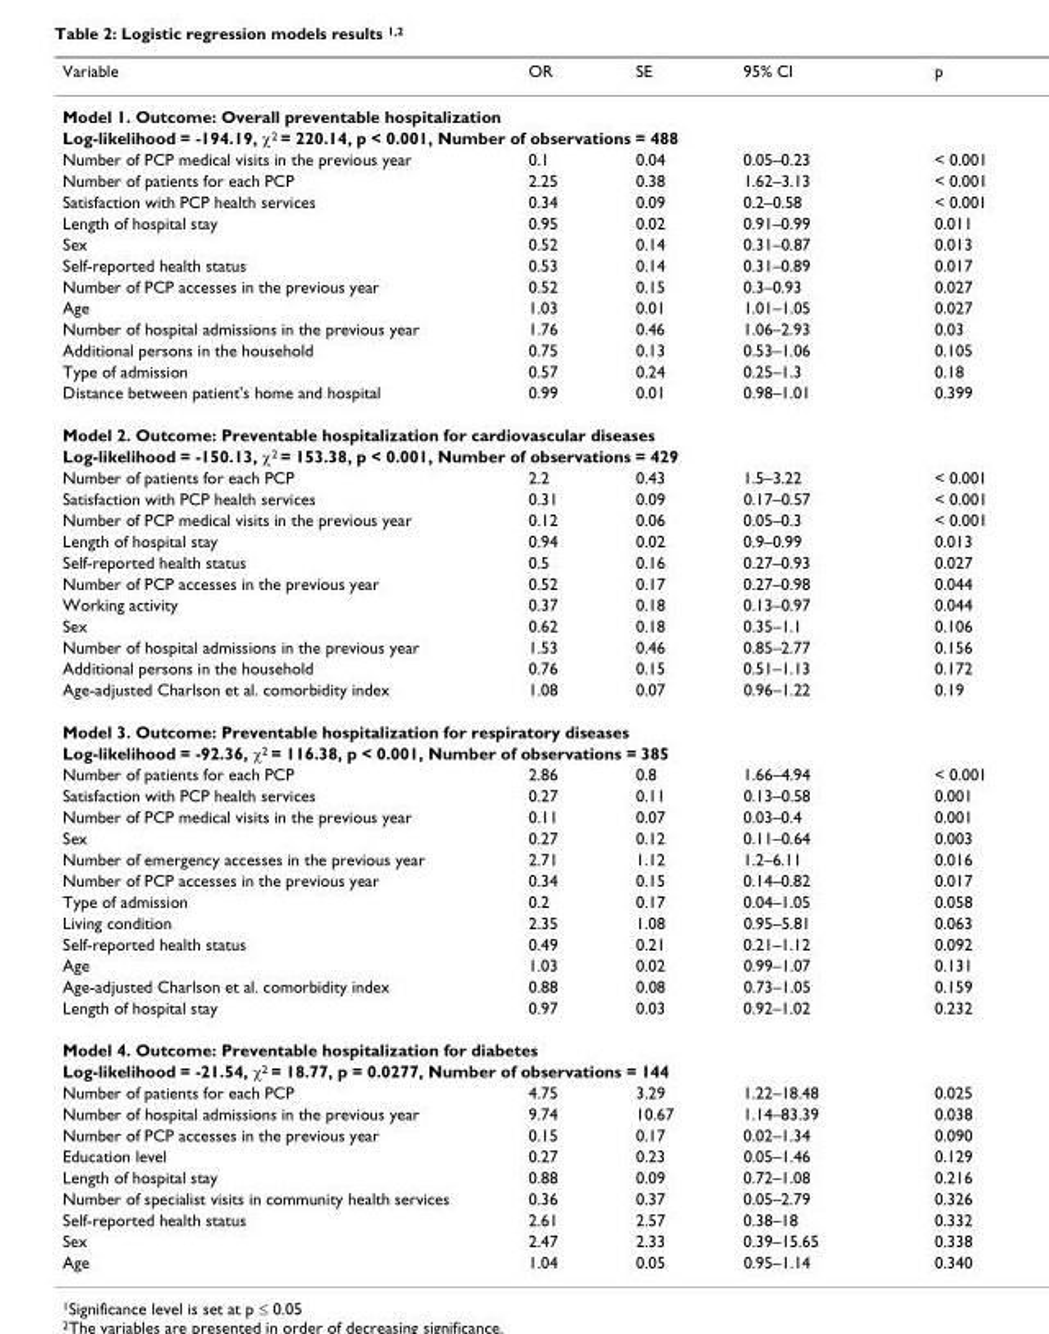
<table><thead><tr><td>Variable</td><td>OR</td><td>SE</td><td>95% CI</td><td>p</td></tr></thead><tbody><tr><td colspan="5">Model 1. Outcome: Overall preventable hospitalization</td></tr><tr><td colspan="5">Log-likelihood = -194.19, χ<sup>2</sup> = 220.14, p &lt; 0.001, Number of observations = 488</td></tr><tr><td>Number of PCP medical visits in the previous year</td><td>0.1</td><td>0.04</td><td>0.05–0.23</td><td>&lt; 0.001</td></tr><tr><td>Number of patients for each PCP</td><td>2.25</td><td>0.38</td><td>1.62–3.13</td><td>&lt; 0.001</td></tr><tr><td>Satisfaction with PCP health services</td><td>0.34</td><td>0.09</td><td>0.2–0.58</td><td>&lt; 0.001</td></tr><tr><td>Length of hospital stay</td><td>0.95</td><td>0.02</td><td>0.91–0.99</td><td>0.011</td></tr><tr><td>Sex</td><td>0.52</td><td>0.14</td><td>0.31–0.87</td><td>0.013</td></tr><tr><td>Self-reported health status</td><td>0.53</td><td>0.14</td><td>0.31–0.89</td><td>0.017</td></tr><tr><td>Number of PCP accesses in the previous year</td><td>0.52</td><td>0.15</td><td>0.3–0.93</td><td>0.027</td></tr><tr><td>Age</td><td>1.03</td><td>0.01</td><td>1.01–1.05</td><td>0.027</td></tr><tr><td>Number of hospital admissions in the previous year</td><td>1.76</td><td>0.46</td><td>1.06–2.93</td><td>0.03</td></tr><tr><td>Additional persons in the household</td><td>0.75</td><td>0.13</td><td>0.53–1.06</td><td>0.105</td></tr><tr><td>Type of admission</td><td>0.57</td><td>0.24</td><td>0.25–1.3</td><td>0.18</td></tr><tr><td>Distance between patient&#x27;s home and hospital</td><td>0.99</td><td>0.01</td><td>0.98–1.01</td><td>0.399</td></tr><tr><td colspan="5">Model 2. Outcome: Preventable hospitalization for cardiovascular diseases</td></tr><tr><td colspan="5">Log-likelihood = -150.13, χ<sup>2</sup> = 153.38, p &lt; 0.001, Number of observations = 429</td></tr><tr><td>Number of patients for each PCP</td><td>2.2</td><td>0.43</td><td>1.5–3.22</td><td>&lt; 0.001</td></tr><tr><td>Satisfaction with PCP health services</td><td>0.31</td><td>0.09</td><td>0.17–0.57</td><td>&lt; 0.001</td></tr><tr><td>Number of PCP medical visits in the previous year</td><td>0.12</td><td>0.06</td><td>0.05–0.3</td><td>&lt; 0.001</td></tr><tr><td>Length of hospital stay</td><td>0.94</td><td>0.02</td><td>0.9–0.99</td><td>0.013</td></tr><tr><td>Self-reported health status</td><td>0.5</td><td>0.16</td><td>0.27–0.93</td><td>0.027</td></tr><tr><td>Number of PCP accesses in the previous year</td><td>0.52</td><td>0.17</td><td>0.27–0.98</td><td>0.044</td></tr><tr><td>Working activity</td><td>0.37</td><td>0.18</td><td>0.13–0.97</td><td>0.044</td></tr><tr><td>Sex</td><td>0.62</td><td>0.18</td><td>0.35–1.1</td><td>0.106</td></tr><tr><td>Number of hospital admissions in the previous year</td><td>1.53</td><td>0.46</td><td>0.85–2.77</td><td>0.156</td></tr><tr><td>Additional persons in the household</td><td>0.76</td><td>0.15</td><td>0.51–1.13</td><td>0.172</td></tr><tr><td>Age-adjusted Charlson et al. comorbidity index</td><td>1.08</td><td>0.07</td><td>0.96–1.22</td><td>0.19</td></tr><tr><td colspan="5">Model 3. Outcome: Preventable hospitalization for respiratory diseases</td></tr><tr><td colspan="5">Log-likelihood = -92.36, χ<sup>2</sup> = 116.38, p &lt; 0.001, Number of observations = 385</td></tr><tr><td>Number of patients for each PCP</td><td>2.86</td><td>0.8</td><td>1.66–4.94</td><td>&lt; 0.001</td></tr><tr><td>Satisfaction with PCP health services</td><td>0.27</td><td>0.11</td><td>0.13–0.58</td><td>0.001</td></tr><tr><td>Number of PCP medical visits in the previous year</td><td>0.11</td><td>0.07</td><td>0.03–0.4</td><td>0.001</td></tr><tr><td>Sex</td><td>0.27</td><td>0.12</td><td>0.11–0.64</td><td>0.003</td></tr><tr><td>Number of emergency accesses in the previous year</td><td>2.71</td><td>1.12</td><td>1.2–6.11</td><td>0.016</td></tr><tr><td>Number of PCP accesses in the previous year</td><td>0.34</td><td>0.15</td><td>0.14–0.82</td><td>0.017</td></tr><tr><td>Type of admission</td><td>0.2</td><td>0.17</td><td>0.04–1.05</td><td>0.058</td></tr><tr><td>Living condition</td><td>2.35</td><td>1.08</td><td>0.95–5.81</td><td>0.063</td></tr><tr><td>Self-reported health status</td><td>0.49</td><td>0.21</td><td>0.21–1.12</td><td>0.092</td></tr><tr><td>Age</td><td>1.03</td><td>0.02</td><td>0.99–1.07</td><td>0.131</td></tr><tr><td>Age-adjusted Charlson et al. comorbidity index</td><td>0.88</td><td>0.08</td><td>0.73–1.05</td><td>0.159</td></tr><tr><td>Length of hospital stay</td><td>0.97</td><td>0.03</td><td>0.92–1.02</td><td>0.232</td></tr><tr><td colspan="5">Model 4. Outcome: Preventable hospitalization for diabetes</td></tr><tr><td colspan="5">Log-likelihood = -21.54, χ<sup>2</sup> = 18.77, p = 0.0277, Number of observations = 144</td></tr><tr><td>Number of patients for each PCP</td><td>4.75</td><td>3.29</td><td>1.22–18.48</td><td>0.025</td></tr><tr><td>Number of hospital admissions in the previous year</td><td>9.74</td><td>10.67</td><td>1.14–83.39</td><td>0.038</td></tr><tr><td>Number of PCP accesses in the previous year</td><td>0.15</td><td>0.17</td><td>0.02–1.34</td><td>0.090</td></tr><tr><td>Education level</td><td>0.27</td><td>0.23</td><td>0.05–1.46</td><td>0.129</td></tr><tr><td>Length of hospital stay</td><td>0.88</td><td>0.09</td><td>0.72–1.08</td><td>0.216</td></tr><tr><td>Number of specialist visits in community health services</td><td>0.36</td><td>0.37</td><td>0.05–2.79</td><td>0.326</td></tr><tr><td>Self-reported health status</td><td>2.61</td><td>2.57</td><td>0.38–18</td><td>0.332</td></tr><tr><td>Sex</td><td>2.47</td><td>2.33</td><td>0.39–15.65</td><td>0.338</td></tr><tr><td>Age</td><td>1.04</td><td>0.05</td><td>0.95–1.14</td><td>0.340</td></tr></tbody></table>